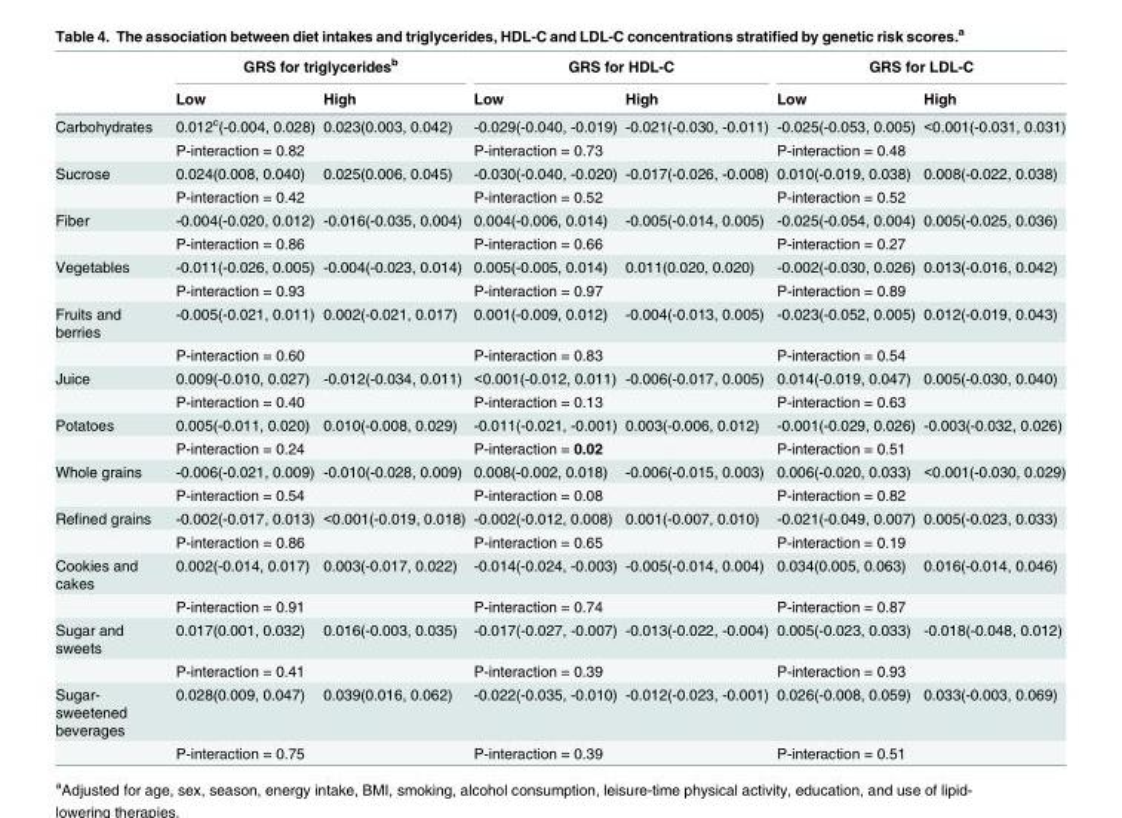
<table><thead><tr><td rowspan="2"></td><td colspan="2">GRS for triglycerides<sup>b</sup></td><td colspan="2">GRS for HDL-C</td><td colspan="2">GRS for LDL-C</td></tr><tr><td>Low</td><td>High</td><td>Low</td><td>High</td><td>Low</td><td>High</td></tr></thead><tbody><tr><td rowspan="2">Carbohydrates</td><td>0.012<sup>c</sup>(-0.004, 0.028)</td><td>0.023(0.003, 0.042)</td><td>-0.029(-0.040, -0.019)</td><td>-0.021(-0.030, -0.011)</td><td>-0.025(-0.053, 0.005)</td><td>&lt;0.001(-0.031, 0.031)</td></tr><tr><td colspan="2">P-interaction = 0.82</td><td colspan="2">P-interaction = 0.73</td><td colspan="2">P-interaction = 0.48</td></tr><tr><td rowspan="2">Sucrose</td><td>0.024(0.008, 0.040)</td><td>0.025(0.006, 0.045)</td><td>-0.030(-0.040, -0.020)</td><td>-0.017(-0.026, -0.008)</td><td>0.010(-0.019, 0.038)</td><td>0.008(-0.022, 0.038)</td></tr><tr><td colspan="2">P-interaction = 0.42</td><td colspan="2">P-interaction = 0.52</td><td colspan="2">P-interaction = 0.52</td></tr><tr><td rowspan="2">Fiber</td><td>-0.004(-0.020, 0.012)</td><td>-0.016(-0.035, 0.004)</td><td>0.004(-0.006, 0.014)</td><td>-0.005(-0.014, 0.005)</td><td>-0.025(-0.054, 0.004)</td><td>0.005(-0.025, 0.036)</td></tr><tr><td colspan="2">P-interaction = 0.86</td><td colspan="2">P-interaction = 0.66</td><td colspan="2">P-interaction = 0.27</td></tr><tr><td rowspan="2">Vegetables</td><td>-0.011(-0.026, 0.005)</td><td>-0.004(-0.023, 0.014)</td><td>0.005(-0.005, 0.014)</td><td>0.011(0.020, 0.020)</td><td>-0.002(-0.030, 0.026)</td><td>0.013(-0.016, 0.042)</td></tr><tr><td colspan="2">P-interaction = 0.93</td><td colspan="2">P-interaction = 0.97</td><td colspan="2">P-interaction = 0.89</td></tr><tr><td rowspan="2">Fruits and berries</td><td>-0.005(-0.021, 0.011)</td><td>0.002(-0.021, 0.017)</td><td>0.001(-0.009, 0.012)</td><td>-0.004(-0.013, 0.005)</td><td>-0.023(-0.052, 0.005)</td><td>0.012(-0.019, 0.043)</td></tr><tr><td colspan="2">P-interaction = 0.60</td><td colspan="2">P-interaction = 0.83</td><td colspan="2">P-interaction = 0.54</td></tr><tr><td rowspan="2">Juice</td><td>0.009(-0.010, 0.027)</td><td>-0.012(-0.034, 0.011)</td><td>&lt;0.001(-0.012, 0.011)</td><td>-0.006(-0.017, 0.005)</td><td>0.014(-0.019, 0.047)</td><td>0.005(-0.030, 0.040)</td></tr><tr><td colspan="2">P-interaction = 0.40</td><td colspan="2">P-interaction = 0.13</td><td colspan="2">P-interaction = 0.63</td></tr><tr><td rowspan="2">Potatoes</td><td>0.005(-0.011, 0.020)</td><td>0.010(-0.008, 0.029)</td><td>-0.011(-0.021, -0.001)</td><td>0.003(-0.006, 0.012)</td><td>-0.001(-0.029, 0.026)</td><td>-0.003(-0.032, 0.026)</td></tr><tr><td colspan="2">P-interaction = 0.24</td><td colspan="2">P-interaction = 0.02</td><td colspan="2">P-interaction = 0.51</td></tr><tr><td rowspan="2">Whole grains</td><td>-0.006(-0.021, 0.009)</td><td>-0.010(-0.028, 0.009)</td><td>0.008(-0.002, 0.018)</td><td>-0.006(-0.015, 0.003)</td><td>0.006(-0.020, 0.033)</td><td>&lt;0.001(-0.030, 0.029)</td></tr><tr><td colspan="2">P-interaction = 0.54</td><td colspan="2">P-interaction = 0.08</td><td colspan="2">P-interaction = 0.82</td></tr><tr><td rowspan="2">Refined grains</td><td>-0.002(-0.017, 0.013)</td><td>&lt;0.001(-0.019, 0.018)</td><td>-0.002(-0.012, 0.008)</td><td>0.001(-0.007, 0.010)</td><td>-0.021(-0.049, 0.007)</td><td>0.005(-0.023, 0.033)</td></tr><tr><td colspan="2">P-interaction = 0.86</td><td colspan="2">P-interaction = 0.65</td><td colspan="2">P-interaction = 0.19</td></tr><tr><td rowspan="2">Cookies and cakes</td><td>0.002(-0.014, 0.017)</td><td>0.003(-0.017, 0.022)</td><td>-0.014(-0.024, -0.003)</td><td>-0.005(-0.014, 0.004)</td><td>0.034(0.005, 0.063)</td><td>0.016(-0.014, 0.046)</td></tr><tr><td colspan="2">P-interaction = 0.91</td><td colspan="2">P-interaction = 0.74</td><td colspan="2">P-interaction = 0.87</td></tr><tr><td rowspan="2">Sugar and sweets</td><td>0.017(0.001, 0.032)</td><td>0.016(-0.003, 0.035)</td><td>-0.017(-0.027, -0.007)</td><td>-0.013(-0.022, -0.004)</td><td>0.005(-0.023, 0.033)</td><td>-0.018(-0.048, 0.012)</td></tr><tr><td colspan="2">P-interaction = 0.41</td><td colspan="2">P-interaction = 0.39</td><td colspan="2">P-interaction = 0.93</td></tr><tr><td rowspan="2">Sugar- sweetened beverages</td><td>0.028(0.009, 0.047)</td><td>0.039(0.016, 0.062)</td><td>-0.022(-0.035, -0.010)</td><td>-0.012(-0.023, -0.001)</td><td>0.026(-0.008, 0.059)</td><td>0.033(-0.003, 0.069)</td></tr><tr><td colspan="2">P-interaction = 0.75</td><td colspan="2">P-interaction = 0.39</td><td colspan="2">P-interaction = 0.51</td></tr></tbody></table>